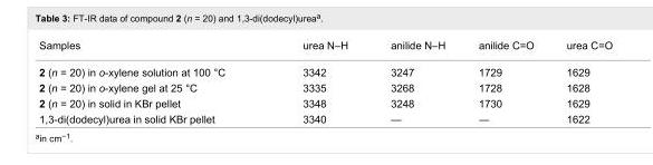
<table><tbody><tr><td>Samples</td><td>urea N–H</td><td>anilide N–H</td><td>anilide C=O</td><td>urea C=O</td></tr><tr><td>2 (n = 20) in o-xylene solution at 100 °C</td><td>3342</td><td>3247</td><td>1729</td><td>1629</td></tr><tr><td>2 (n = 20) in o-xylene gel at 25 °C</td><td>3335</td><td>3268</td><td>1728</td><td>1628</td></tr><tr><td>2 (n = 20) in solid in KBr pellet</td><td>3348</td><td>3248</td><td>1730</td><td>1629</td></tr><tr><td>1,3-di(dodecyl)urea in solid KBr pellet</td><td>3340</td><td>—</td><td>―</td><td>1622</td></tr></tbody></table>